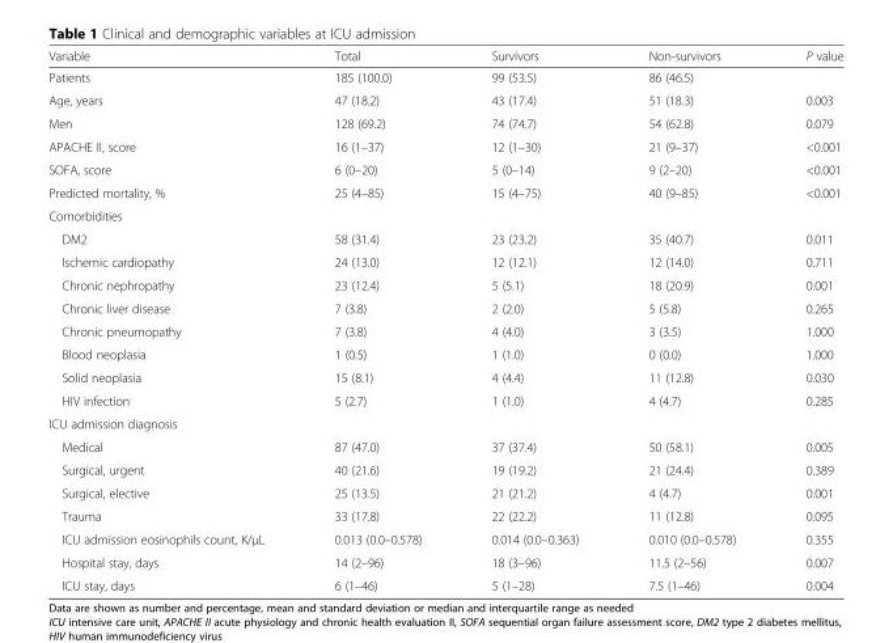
<table><thead><tr><td>Variable</td><td>Total</td><td>Survivors</td><td>Non-survivors</td><td>P value</td></tr></thead><tbody><tr><td>Patients</td><td>185 (100.0)</td><td>99 (53.5)</td><td>86 (46.5)</td><td></td></tr><tr><td>Age, years</td><td>47 (18.2)</td><td>43 (17.4)</td><td>51 (18.3)</td><td>0.003</td></tr><tr><td>Men</td><td>128 (69.2)</td><td>74 (74.7)</td><td>54 (62.8)</td><td>0.079</td></tr><tr><td>APACHE II, score</td><td>16 (1–37)</td><td>12 (1–30)</td><td>21 (9–37)</td><td>&lt;0.001</td></tr><tr><td>SOFA, score</td><td>6 (0–20)</td><td>5 (0–14)</td><td>9 (2–20)</td><td>&lt;0.001</td></tr><tr><td>Predicted mortality, %</td><td>25 (4–85)</td><td>15 (4–75)</td><td>40 (9–85)</td><td>&lt;0.001</td></tr><tr><td colspan="5">Comorbidities</td></tr><tr><td>DM2</td><td>58 (31.4)</td><td>23 (23.2)</td><td>35 (40.7)</td><td>0.011</td></tr><tr><td>Ischemic cardiopathy</td><td>24 (13.0)</td><td>12 (12.1)</td><td>12 (14.0)</td><td>0.711</td></tr><tr><td>Chronic nephropathy</td><td>23 (12.4)</td><td>5 (5.1)</td><td>18 (20.9)</td><td>0.001</td></tr><tr><td>Chronic liver disease</td><td>7 (3.8)</td><td>2 (2.0)</td><td>5 (5.8)</td><td>0.265</td></tr><tr><td>Chronic pneumopathy</td><td>7 (3.8)</td><td>4 (4.0)</td><td>3 (3.5)</td><td>1.000</td></tr><tr><td>Blood neoplasia</td><td>1 (0.5)</td><td>1 (1.0)</td><td>0 (0.0)</td><td>1.000</td></tr><tr><td>Solid neoplasia</td><td>15 (8.1)</td><td>4 (4.4)</td><td>11 (12.8)</td><td>0.030</td></tr><tr><td>HIV infection</td><td>5 (2.7)</td><td>1 (1.0)</td><td>4 (4.7)</td><td>0.285</td></tr><tr><td colspan="5">ICU admission diagnosis</td></tr><tr><td>Medical</td><td>87 (47.0)</td><td>37 (37.4)</td><td>50 (58.1)</td><td>0.005</td></tr><tr><td>Surgical, urgent</td><td>40 (21.6)</td><td>19 (19.2)</td><td>21 (24.4)</td><td>0.389</td></tr><tr><td>Surgical, elective</td><td>25 (13.5)</td><td>21 (21.2)</td><td>4 (4.7)</td><td>0.001</td></tr><tr><td>Trauma</td><td>33 (17.8)</td><td>22 (22.2)</td><td>11 (12.8)</td><td>0.095</td></tr><tr><td>ICU admission eosinophils count, K/μL</td><td>0.013 (0.0–0.578)</td><td>0.014 (0.0–0.363)</td><td>0.010 (0.0–0.578)</td><td>0.355</td></tr><tr><td>Hospital stay, days</td><td>14 (2–96)</td><td>18 (3–96)</td><td>11.5 (2–56)</td><td>0.007</td></tr><tr><td>ICU stay, days</td><td>6 (1–46)</td><td>5 (1–28)</td><td>7.5 (1–46)</td><td>0.004</td></tr></tbody></table>